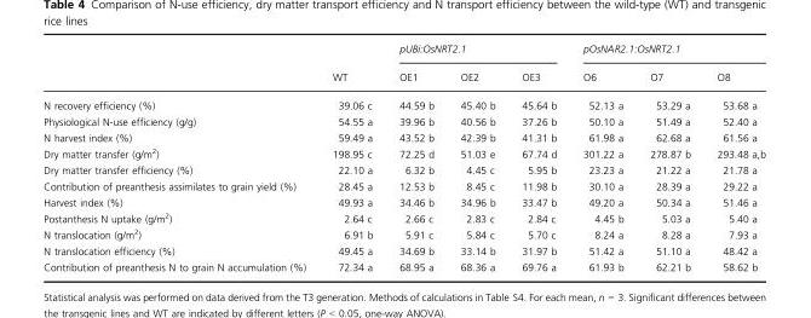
<table><thead><tr><td rowspan="2"></td><td rowspan="2">WT</td><td colspan="3">pUBi:OsNRT2.1</td><td colspan="3">pOsNAR2.1:OsNRT2.1</td></tr><tr><td>OE1</td><td>OE2</td><td>OE3</td><td>O6</td><td>O7</td><td>O8</td></tr></thead><tbody><tr><td>N recovery efficiency (%)</td><td>39.06 c</td><td>44.59 b</td><td>45.40 b</td><td>45.64 b</td><td>52.13 a</td><td>53.29 a</td><td>53.68 a</td></tr><tr><td>Physiological N-use efficiency (g/g)</td><td>54.55 a</td><td>39.96 b</td><td>40.56 b</td><td>37.26 b</td><td>50.10 a</td><td>51.49 a</td><td>52.40 a</td></tr><tr><td>N harvest index (%)</td><td>59.49 a</td><td>43.52 b</td><td>42.39 b</td><td>41.31 b</td><td>61.98 a</td><td>62.68 a</td><td>61.56 a</td></tr><tr><td>Dry matter transfer (g/m<sup>2</sup>)</td><td>198.95 c</td><td>72.25 d</td><td>51.03 e</td><td>67.74 d</td><td>301.22 a</td><td>278.87 b</td><td>293.48 a,b</td></tr><tr><td>Dry matter transfer efficiency (%)</td><td>22.10 a</td><td>6.32 b</td><td>4.45 c</td><td>5.95 b</td><td>23.23 a</td><td>21.22 a</td><td>21.78 a</td></tr><tr><td>Contribution of preanthesis assimilates to grain yield (%)</td><td>28.45 a</td><td>12.53 b</td><td>8.45 c</td><td>11.98 b</td><td>30.10 a</td><td>28.39 a</td><td>29.22 a</td></tr><tr><td>Harvest index (%)</td><td>49.93 a</td><td>34.46 b</td><td>34.96 b</td><td>33.47 b</td><td>49.20 a</td><td>50.34 a</td><td>51.46 a</td></tr><tr><td>Postanthesis N uptake (g/m<sup>2</sup>)</td><td>2.64 c</td><td>2.66 c</td><td>2.83 c</td><td>2.84 c</td><td>4.45 b</td><td>5.03 a</td><td>5.40 a</td></tr><tr><td>N translocation (g/m<sup>2</sup>)</td><td>6.91 b</td><td>5.91 c</td><td>5.84 c</td><td>5.70 c</td><td>8.24 a</td><td>8.28 a</td><td>7.93 a</td></tr><tr><td>N translocation efficiency (%)</td><td>49.45 a</td><td>34.69 b</td><td>33.14 b</td><td>31.97 b</td><td>51.42 a</td><td>51.10 a</td><td>48.42 a</td></tr><tr><td>Contribution of preanthesis N to grain N accumulation (%)</td><td>72.34 a</td><td>68.95 a</td><td>68.36 a</td><td>69.76 a</td><td>61.93 b</td><td>62.21 b</td><td>58.62 b</td></tr></tbody></table>